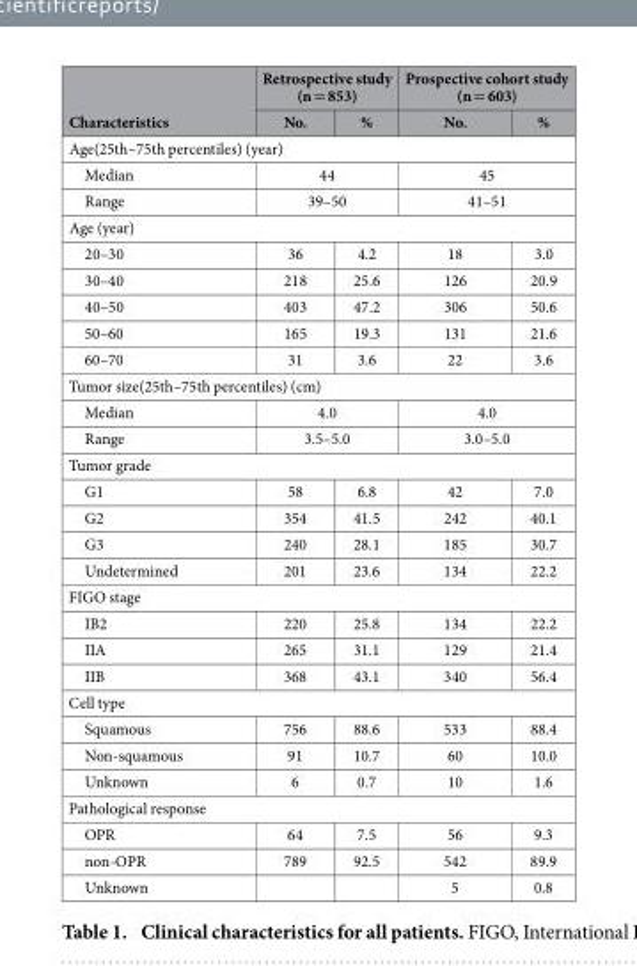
<table><thead><tr><td rowspan="2">Characteristics</td><td colspan="2">Retrospective study (n = 853)</td><td colspan="2">Prospective cohort study (n = 603)</td></tr><tr><td>No.</td><td>%</td><td>No.</td><td>%</td></tr></thead><tbody><tr><td colspan="5">Age(25th–75th percentiles) (year)</td></tr><tr><td>Median</td><td colspan="2">44</td><td colspan="2">45</td></tr><tr><td>Range</td><td colspan="2">39–50</td><td colspan="2">41–51</td></tr><tr><td colspan="5">Age (year)</td></tr><tr><td>20–30</td><td>36</td><td>4.2</td><td>18</td><td>3.0</td></tr><tr><td>30–40</td><td>218</td><td>25.6</td><td>126</td><td>20.9</td></tr><tr><td>40–50</td><td>403</td><td>47.2</td><td>306</td><td>50.6</td></tr><tr><td>50–60</td><td>165</td><td>19.3</td><td>131</td><td>21.6</td></tr><tr><td>60–70</td><td>31</td><td>3.6</td><td>22</td><td>3.6</td></tr><tr><td colspan="5">Tumor size(25th–75th percentiles) (cm)</td></tr><tr><td>Median</td><td colspan="2">4.0</td><td colspan="2">4.0</td></tr><tr><td>Range</td><td colspan="2">3.5–5.0</td><td colspan="2">3.0–5.0</td></tr><tr><td colspan="5">Tumor grade</td></tr><tr><td>G1</td><td>58</td><td>6.8</td><td>42</td><td>7.0</td></tr><tr><td>G2</td><td>354</td><td>41.5</td><td>242</td><td>40.1</td></tr><tr><td>G3</td><td>240</td><td>28.1</td><td>185</td><td>30.7</td></tr><tr><td>Undetermined</td><td>201</td><td>23.6</td><td>134</td><td>22.2</td></tr><tr><td colspan="5">FIGO stage</td></tr><tr><td>IB2</td><td>220</td><td>25.8</td><td>134</td><td>22.2</td></tr><tr><td>IIA</td><td>265</td><td>31.1</td><td>129</td><td>21.4</td></tr><tr><td>IIB</td><td>368</td><td>43.1</td><td>340</td><td>56.4</td></tr><tr><td colspan="5">Cell type</td></tr><tr><td>Squamous</td><td>756</td><td>88.6</td><td>533</td><td>88.4</td></tr><tr><td>Non-squamous</td><td>91</td><td>10.7</td><td>60</td><td>10.0</td></tr><tr><td>Unknown</td><td>6</td><td>0.7</td><td>10</td><td>1.6</td></tr><tr><td colspan="5">Pathological response</td></tr><tr><td>OPR</td><td>64</td><td>7.5</td><td>56</td><td>9.3</td></tr><tr><td>non-OPR</td><td>789</td><td>92.5</td><td>542</td><td>89.9</td></tr><tr><td>Unknown</td><td></td><td></td><td>5</td><td>0.8</td></tr></tbody></table>